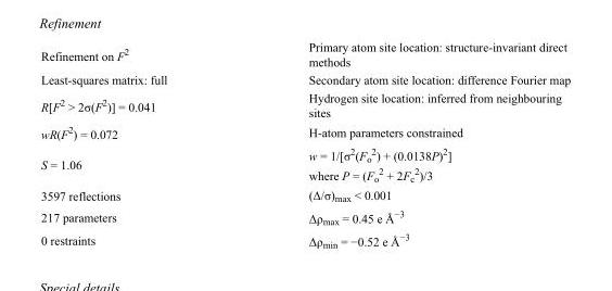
<table><tbody><tr><td>Refinement on F<sup>2</sup></td><td>Primary atom site location: structure-invariant direct methods</td></tr><tr><td>Least-squares matrix: full</td><td>Secondary atom site location: difference Fourier map</td></tr><tr><td>R[F<sup>2</sup> &gt; 2σ(F<sup>2</sup>)] = 0.041</td><td>Hydrogen site location: inferred from neighbouring sites</td></tr><tr><td>wR(F<sup>2</sup>) = 0.072</td><td>H-atom parameters constrained</td></tr><tr><td>S = 1.06</td><td>w = 1/[σ<sup>2</sup>(F<sub>o</sub> <sup>2</sup>) + (0.0138P)<sup>2</sup>] where P = (F<sub>o</sub> <sup>2</sup> + 2F<sub>c</sub> <sup>2</sup>)/3</td></tr><tr><td>3597 reflections</td><td>(Δ/σ)<sub>max</sub> &lt; 0.001</td></tr><tr><td>217 parameters</td><td>Δρ<sub>max</sub> = 0.45 e Å<sup>−3</sup></td></tr><tr><td>0 restraints</td><td>Δρ<sub>min</sub> = −0.52 e Å<sup>−3</sup></td></tr></tbody></table>